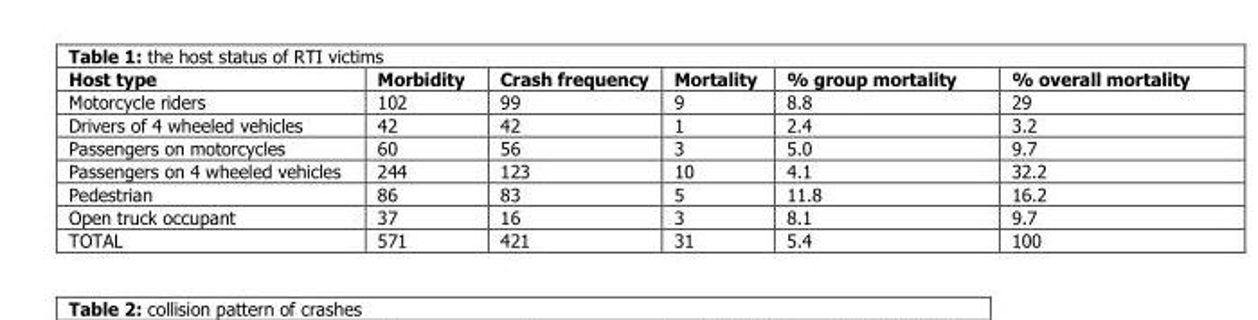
<table><thead><tr><td>Host type</td><td>Morbidity</td><td>Crash frequency</td><td>Mortality</td><td>% group mortality</td><td>% overall mortality</td></tr></thead><tbody><tr><td>Motorcycle riders</td><td>102</td><td>99</td><td>9</td><td>8.8</td><td>29</td></tr><tr><td>Drivers of 4 wheeled vehicles</td><td>42</td><td>42</td><td>1</td><td>2.4</td><td>3.2</td></tr><tr><td>Passengers on motorcycles</td><td>60</td><td>56</td><td>3</td><td>5.0</td><td>9.7</td></tr><tr><td>Passengers on 4 wheeled vehicles</td><td>244</td><td>123</td><td>10</td><td>4.1</td><td>32.2</td></tr><tr><td>Pedestrian</td><td>86</td><td>83</td><td>5</td><td>11.8</td><td>16.2</td></tr><tr><td>Open truck occupant</td><td>37</td><td>16</td><td>3</td><td>8.1</td><td>9.7</td></tr><tr><td>TOTAL</td><td>571</td><td>421</td><td>31</td><td>5.4</td><td>100</td></tr></tbody></table>